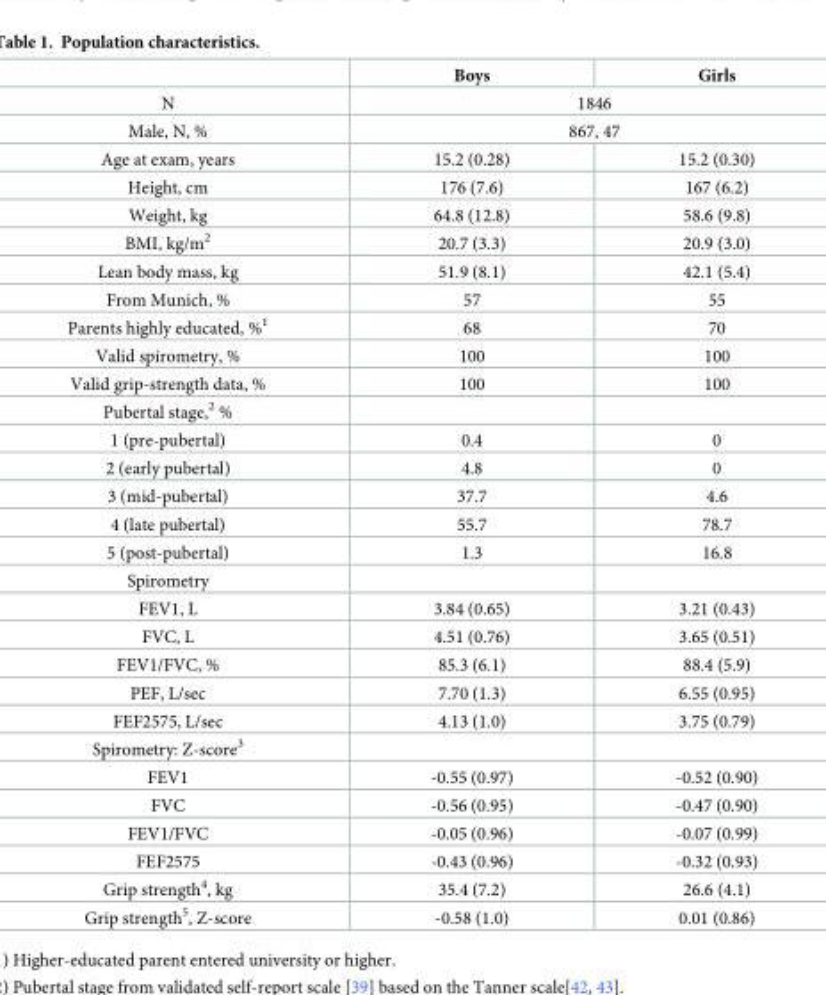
<table><thead><tr><td></td><td>Boys</td><td>Girls</td></tr></thead><tbody><tr><td>N</td><td colspan="2">1846</td></tr><tr><td>Male, N, %</td><td colspan="2">867, 47</td></tr><tr><td>Age at exam, years</td><td>15.2 (0.28)</td><td>15.2 (0.30)</td></tr><tr><td>Height, cm</td><td>176 (7.6)</td><td>167 (6.2)</td></tr><tr><td>Weight, kg</td><td>64.8 (12.8)</td><td>58.6 (9.8)</td></tr><tr><td>BMI, kg/m<sup>2</sup></td><td>20.7 (3.3)</td><td>20.9 (3.0)</td></tr><tr><td>Lean body mass, kg</td><td>51.9 (8.1)</td><td>42.1 (5.4)</td></tr><tr><td>From Munich, %</td><td>57</td><td>55</td></tr><tr><td>Parents highly educated, %<sup>1</sup></td><td>68</td><td>70</td></tr><tr><td>Valid spirometry, %</td><td>100</td><td>100</td></tr><tr><td>Valid grip-strength data, %</td><td>100</td><td>100</td></tr><tr><td colspan="3">Pubertal stage,<sup>2</sup> %</td></tr><tr><td>1 (pre-pubertal)</td><td>0.4</td><td>0</td></tr><tr><td>2 (early pubertal)</td><td>4.8</td><td>0</td></tr><tr><td>3 (mid-pubertal)</td><td>37.7</td><td>4.6</td></tr><tr><td>4 (late pubertal)</td><td>55.7</td><td>78.7</td></tr><tr><td>5 (post-pubertal)</td><td>1.3</td><td>16.8</td></tr><tr><td colspan="3">Spirometry</td></tr><tr><td>FEV1, L</td><td>3.84 (0.65)</td><td>3.21 (0.43)</td></tr><tr><td>FVC, L</td><td>4.51 (0.76)</td><td>3.65 (0.51)</td></tr><tr><td>FEV1/FVC, %</td><td>85.3 (6.1)</td><td>88.4 (5.9)</td></tr><tr><td>PEF, L/sec</td><td>7.70 (1.3)</td><td>6.55 (0.95)</td></tr><tr><td>FEF2575, L/sec</td><td>4.13 (1.0)</td><td>3.75 (0.79)</td></tr><tr><td colspan="3">Spirometry: Z-score<sup>3</sup></td></tr><tr><td>FEV1</td><td>-0.55 (0.97)</td><td>-0.52 (0.90)</td></tr><tr><td>FVC</td><td>-0.56 (0.95)</td><td>-0.47 (0.90)</td></tr><tr><td>FEV1/FVC</td><td>-0.05 (0.96)</td><td>-0.07 (0.99)</td></tr><tr><td>FEF2575</td><td>-0.43 (0.96)</td><td>-0.32 (0.93)</td></tr><tr><td>Grip strength<sup>4</sup>, kg</td><td>35.4 (7.2)</td><td>26.6 (4.1)</td></tr><tr><td>Grip strength<sup>5</sup>, Z-score</td><td>-0.58 (1.0)</td><td>0.01 (0.86)</td></tr></tbody></table>